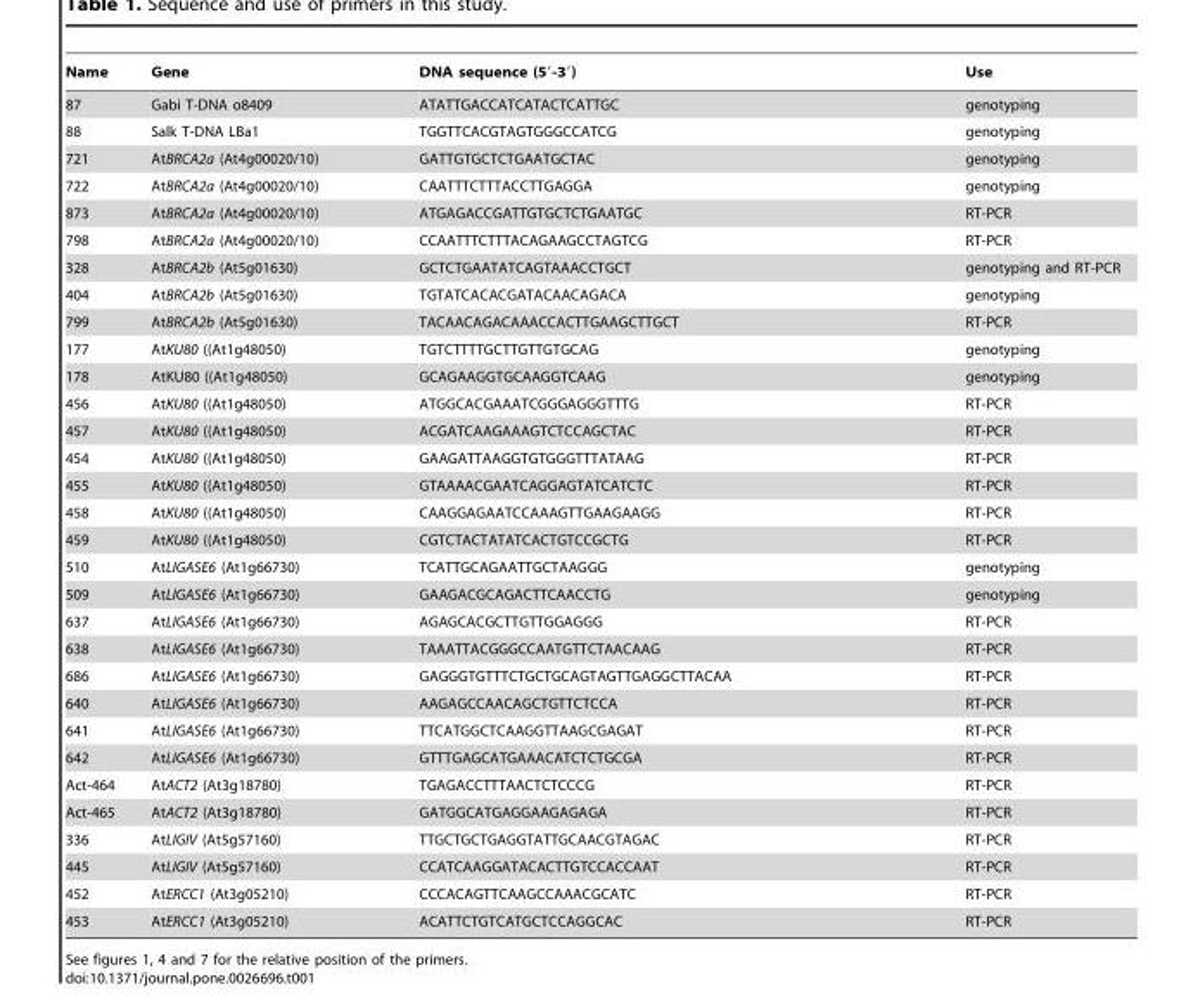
<table><thead><tr><td>Name</td><td>Gene</td><td>DNA sequence (5′-3′)</td><td>Use</td></tr></thead><tbody><tr><td>87</td><td>Gabi T-DNA o8409</td><td>ATATTGACCATCATACTCATTGC</td><td>genotyping</td></tr><tr><td>88</td><td>Salk T-DNA LBa1</td><td>TGGTTCACGTAGTGGGCCATCG</td><td>genotyping</td></tr><tr><td>721</td><td>AtBRCA2a (At4g00020/10)</td><td>GATTGTGCTCTGAATGCTAC</td><td>genotyping</td></tr><tr><td>722</td><td>AtBRCA2a (At4g00020/10)</td><td>CAATTTCTTTACCTTGAGGA</td><td>genotyping</td></tr><tr><td>873</td><td>AtBRCA2a (At4g00020/10)</td><td>ATGAGACCGATTGTGCTCTGAATGC</td><td>RT-PCR</td></tr><tr><td>798</td><td>AtBRCA2a (At4g00020/10)</td><td>CCAATTTCTTTACAGAAGCCTAGTCG</td><td>RT-PCR</td></tr><tr><td>328</td><td>AtBRCA2b (At5g01630)</td><td>GCTCTGAATATCAGTAAACCTGCT</td><td>genotyping and RT-PCR</td></tr><tr><td>404</td><td>AtBRCA2b (At5g01630)</td><td>TGTATCACACGATACAACAGACA</td><td>genotyping</td></tr><tr><td>799</td><td>AtBRCA2b (At5g01630)</td><td>TACAACAGACAAACCACTTGAAGCTTGCT</td><td>RT-PCR</td></tr><tr><td>177</td><td>AtKU80 ((At1g48050)</td><td>TGTCTTTTGCTTGTTGTGCAG</td><td>genotyping</td></tr><tr><td>178</td><td>AtKU80 ((At1g48050)</td><td>GCAGAAGGTGCAAGGTCAAG</td><td>genotyping</td></tr><tr><td>456</td><td>AtKU80 ((At1g48050)</td><td>ATGGCACGAAATCGGGAGGGTTTG</td><td>RT-PCR</td></tr><tr><td>457</td><td>AtKU80 ((At1g48050)</td><td>ACGATCAAGAAAGTCTCCAGCTAC</td><td>RT-PCR</td></tr><tr><td>454</td><td>AtKU80 ((At1g48050)</td><td>GAAGATTAAGGTGTGGGTTTATAAG</td><td>RT-PCR</td></tr><tr><td>455</td><td>AtKU80 ((At1g48050)</td><td>GTAAAACGAATCAGGAGTATCATCTC</td><td>RT-PCR</td></tr><tr><td>458</td><td>AtKU80 ((At1g48050)</td><td>CAAGGAGAATCCAAAGTTGAAGAAGG</td><td>RT-PCR</td></tr><tr><td>459</td><td>AtKU80 ((At1g48050)</td><td>CGTCTACTATATCACTGTCCGCTG</td><td>RT-PCR</td></tr><tr><td>510</td><td>AtLIGASE6 (At1g66730)</td><td>TCATTGCAGAATTGCTAAGGG</td><td>genotyping</td></tr><tr><td>509</td><td>AtLIGASE6 (At1g66730)</td><td>GAAGACGCAGACTTCAACCTG</td><td>genotyping</td></tr><tr><td>637</td><td>AtLIGASE6 (At1g66730)</td><td>AGAGCACGCTTGTTGGAGGG</td><td>RT-PCR</td></tr><tr><td>638</td><td>AtLIGASE6 (At1g66730)</td><td>TAAATTACGGGCCAATGTTCTAACAAG</td><td>RT-PCR</td></tr><tr><td>686</td><td>AtLIGASE6 (At1g66730)</td><td>GAGGGTGTTTCTGCTGCAGTAGTTGAGGCTTACAA</td><td>RT-PCR</td></tr><tr><td>640</td><td>AtLIGASE6 (At1g66730)</td><td>AAGAGCCAACAGCTGTTCTCCA</td><td>RT-PCR</td></tr><tr><td>641</td><td>AtLIGASE6 (At1g66730)</td><td>TTCATGGCTCAAGGTTAAGCGAGAT</td><td>RT-PCR</td></tr><tr><td>642</td><td>AtLIGASE6 (At1g66730)</td><td>GTTTGAGCATGAAACATCTCTGCGA</td><td>RT-PCR</td></tr><tr><td>Act-464</td><td>AtACT2 (At3g18780)</td><td>TGAGACCTTTAACTCTCCCG</td><td>RT-PCR</td></tr><tr><td>Act-465</td><td>AtACT2 (At3g18780)</td><td>GATGGCATGAGGAAGAGAGA</td><td>RT-PCR</td></tr><tr><td>336</td><td>AtLIGIV (At5g57160)</td><td>TTGCTGCTGAGGTATTGCAACGTAGAC</td><td>RT-PCR</td></tr><tr><td>445</td><td>AtLIGIV (At5g57160)</td><td>CCATCAAGGATACACTTGTCCACCAAT</td><td>RT-PCR</td></tr><tr><td>452</td><td>AtERCC1 (At3g05210)</td><td>CCCACAGTTCAAGCCAAACGCATC</td><td>RT-PCR</td></tr><tr><td>453</td><td>AtERCC1 (At3g05210)</td><td>ACATTCTGTCATGCTCCAGGCAC</td><td>RT-PCR</td></tr></tbody></table>